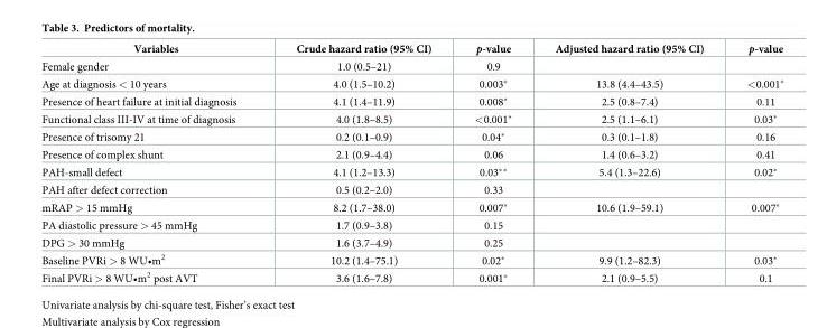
<table><thead><tr><td>Variables</td><td>Crude hazard ratio (95% CI)</td><td>p-value</td><td>Adjusted hazard ratio (95% CI)</td><td>p-value</td></tr></thead><tbody><tr><td>Female gender</td><td>1.0 (0.5–21)</td><td>0.9</td><td></td><td></td></tr><tr><td>Age at diagnosis &lt; 10 years</td><td>4.0 (1.5–10.2)</td><td>0.003*</td><td>13.8 (4.4–43.5)</td><td>&lt;0.001*</td></tr><tr><td>Presence of heart failure at initial diagnosis</td><td>4.1 (1.4–11.9)</td><td>0.008*</td><td>2.5 (0.8–7.4)</td><td>0.11</td></tr><tr><td>Functional class III-IV at time of diagnosis</td><td>4.0 (1.8–8.5)</td><td>&lt;0.001*</td><td>2.5 (1.1–6.1)</td><td>0.03*</td></tr><tr><td>Presence of trisomy 21</td><td>0.2 (0.1–0.9)</td><td>0.04*</td><td>0.3 (0.1–1.8)</td><td>0.16</td></tr><tr><td>Presence of complex shunt</td><td>2.1 (0.9–4.4)</td><td>0.06</td><td>1.4 (0.6–3.2)</td><td>0.41</td></tr><tr><td>PAH-small defect</td><td>4.1 (1.2–13.3)</td><td>0.03**</td><td>5.4 (1.3–22.6)</td><td>0.02*</td></tr><tr><td>PAH after defect correction</td><td>0.5 (0.2–2.0)</td><td>0.33</td><td></td><td></td></tr><tr><td>mRAP &gt; 15 mmHg</td><td>8.2 (1.7–38.0)</td><td>0.007*</td><td>10.6 (1.9–59.1)</td><td>0.007*</td></tr><tr><td>PA diastolic pressure &gt; 45 mmHg</td><td>1.7 (0.9–3.8)</td><td>0.15</td><td></td><td></td></tr><tr><td>DPG &gt; 30 mmHg</td><td>1.6 (3.7–4.9)</td><td>0.25</td><td></td><td></td></tr><tr><td>Baseline PVRi &gt; 8 WU•m<sup>2</sup></td><td>10.2 (1.4–75.1)</td><td>0.02*</td><td>9.9 (1.2–82.3)</td><td>0.03*</td></tr><tr><td>Final PVRi &gt; 8 WU•m<sup>2</sup> post AVT</td><td>3.6 (1.6–7.8)</td><td>0.001*</td><td>2.1 (0.9–5.5)</td><td>0.1</td></tr></tbody></table>